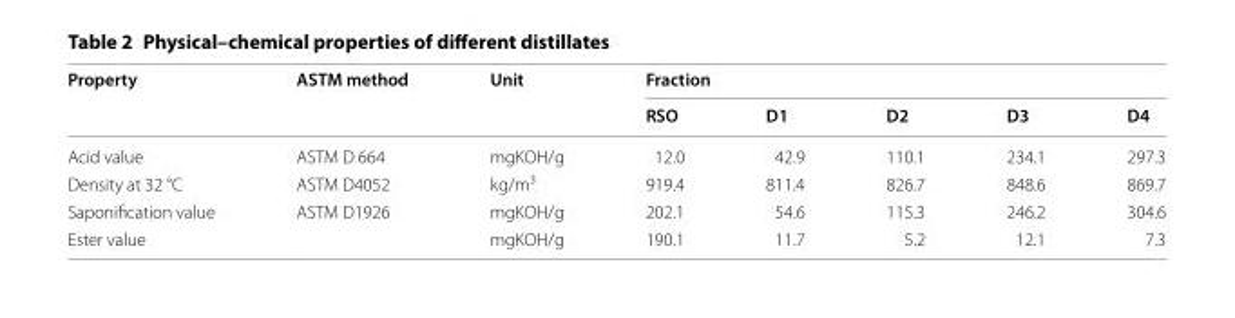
<table><thead><tr><td rowspan="2">Property</td><td rowspan="2">ASTM method</td><td rowspan="2">Unit</td><td colspan="5">Fraction</td></tr><tr><td>RSO</td><td>D1</td><td>D2</td><td>D3</td><td>D4</td></tr></thead><tbody><tr><td>Acid value</td><td>ASTM D 664</td><td>mgKOH/g</td><td>12.0</td><td>42.9</td><td>110.1</td><td>234.1</td><td>297.3</td></tr><tr><td>Density at 32 °C</td><td>ASTM D4052</td><td>kg/m<sup>3</sup></td><td>919.4</td><td>811.4</td><td>826.7</td><td>848.6</td><td>869.7</td></tr><tr><td>Saponification value</td><td>ASTM D1926</td><td>mgKOH/g</td><td>202.1</td><td>54.6</td><td>115.3</td><td>246.2</td><td>304.6</td></tr><tr><td>Ester value</td><td></td><td>mgKOH/g</td><td>190.1</td><td>11.7</td><td>5.2</td><td>12.1</td><td>7.3</td></tr></tbody></table>